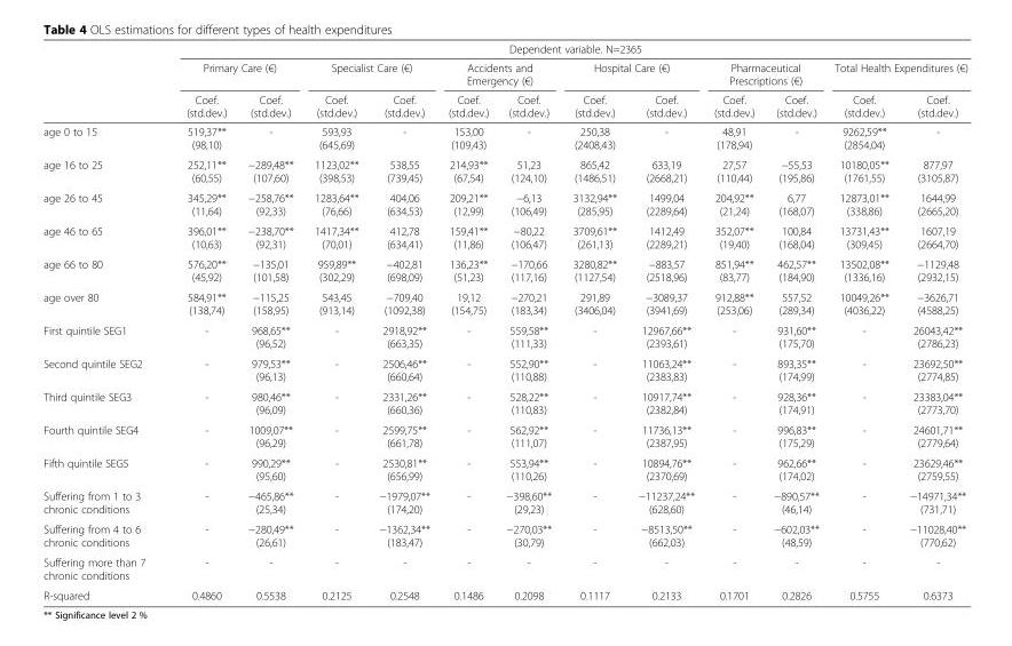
<table><thead><tr><td rowspan="3"></td><td colspan="12">Dependent variable. N=2365</td></tr><tr><td colspan="2">Primary Care (€)</td><td colspan="2">Specialist Care (€)</td><td colspan="2">Accidents and Emergency (€)</td><td colspan="2">Hospital Care (€)</td><td colspan="2">Pharmaceutical Prescriptions (€)</td><td colspan="2">Total Health Expenditures (€)</td></tr><tr><td>Coef. (std.dev.)</td><td>Coef. (std.dev.)</td><td>Coef. (std.dev.)</td><td>Coef. (std.dev.)</td><td>Coef. (std.dev.)</td><td>Coef. (std.dev.)</td><td>Coef. (std.dev.)</td><td>Coef. (std.dev.)</td><td>Coef. (std.dev.)</td><td>Coef. (std.dev.)</td><td>Coef. (std.dev.)</td><td>Coef. (std.dev.)</td></tr></thead><tbody><tr><td>age 0 to 15</td><td>519,37** (98,10)</td><td>-</td><td>593,93 (645,69)</td><td>-</td><td>153,00 (109,43)</td><td>-</td><td>250,38 (2408,43)</td><td>-</td><td>48,91 (178,94)</td><td>-</td><td>9262,59** (2854,04)</td><td>-</td></tr><tr><td>age 16 to 25</td><td>252,11** (60,55)</td><td>−289,48** (107,60)</td><td>1123,02** (398,53)</td><td>538,55 (739,45)</td><td>214,93** (67,54)</td><td>51,23 (124,10)</td><td>865,42 (1486,51)</td><td>633,19 (2668,21)</td><td>27,57 (110,44)</td><td>−55,53 (195,86)</td><td>10180,05** (1761,55)</td><td>877,97 (3105,87)</td></tr><tr><td>age 26 to 45</td><td>345,29** (11,64)</td><td>−258,76** (92,33)</td><td>1283,64** (76,66)</td><td>404,06 (634,53)</td><td>209,21** (12,99)</td><td>−6,13 (106,49)</td><td>3132,94** (285,95)</td><td>1499,04 (2289,64)</td><td>204,92** (21,24)</td><td>6,77 (168,07)</td><td>12873,01** (338,86)</td><td>1644,99 (2665,20)</td></tr><tr><td>age 46 to 65</td><td>396,01** (10,63)</td><td>−238,70** (92,31)</td><td>1417,34** (70,01)</td><td>412,78 (634,41)</td><td>159,41** (11,86)</td><td>−80,22 (106,47)</td><td>3709,61** (261,13)</td><td>1412,49 (2289,21)</td><td>352,07** (19,40)</td><td>100,84 (168,04)</td><td>13731,43** (309,45)</td><td>1607,19 (2664,70)</td></tr><tr><td>age 66 to 80</td><td>576,20** (45,92)</td><td>−135,01 (101,58)</td><td>959,89** (302,29)</td><td>−402,81 (698,09)</td><td>136,23** (51,23)</td><td>−170,66 (117,16)</td><td>3280,82** (1127,54)</td><td>−883,57 (2518,96)</td><td>851,94** (83,77)</td><td>462,57** (184,90)</td><td>13502,08** (1336,16)</td><td>−1129,48 (2932,15)</td></tr><tr><td>age over 80</td><td>584,91** (138,74)</td><td>−115,25 (158,95)</td><td>543,45 (913,14)</td><td>−709,40 (1092,38)</td><td>19,12 (154,75)</td><td>−270,21 (183,34)</td><td>291,89 (3406,04)</td><td>−3089,37 (3941,69)</td><td>912,88** (253,06)</td><td>557,52 (289,34)</td><td>10049,26** (4036,22)</td><td>−3626,71 (4588,25)</td></tr><tr><td>First quintile SEG1</td><td>-</td><td>968,65** (96,52)</td><td>-</td><td>2918,92** (663,35)</td><td>-</td><td>559,58** (111,33)</td><td>-</td><td>12967,66** (2393,61)</td><td>-</td><td>931,60** (175,70)</td><td>-</td><td>26043,42** (2786,23)</td></tr><tr><td>Second quintile SEG2</td><td>-</td><td>979,53** (96,13)</td><td>-</td><td>2506,46** (660,64)</td><td>-</td><td>552,90** (110,88)</td><td>-</td><td>11063,24** (2383,83)</td><td>-</td><td>893,35** (174,99)</td><td>-</td><td>23692,50** (2774,85)</td></tr><tr><td>Third quintile SEG3</td><td>-</td><td>980,46** (96,09)</td><td>-</td><td>2331,26** (660,36)</td><td>-</td><td>528,22** (110,83)</td><td>-</td><td>10917,74** (2382,84)</td><td>-</td><td>928,36** (174,91)</td><td>-</td><td>23383,04** (2773,70)</td></tr><tr><td>Fourth quintile SEG4</td><td>-</td><td>1009,07** (96,29)</td><td>-</td><td>2599,75** (661,78)</td><td>-</td><td>562,92** (111,07)</td><td>-</td><td>11736,13** (2387,95)</td><td>-</td><td>996,83** (175,29)</td><td>-</td><td>24601,71** (2779,64)</td></tr><tr><td>Fifth quintile SEG5</td><td>-</td><td>990,29** (95,60)</td><td>-</td><td>2530,81** (656,99)</td><td>-</td><td>553,94** (110,26)</td><td>-</td><td>10894,76** (2370,69)</td><td>-</td><td>962,66** (174,02)</td><td>-</td><td>23629,46** (2759,55)</td></tr><tr><td>Suffering from 1 to 3 chronic conditions</td><td>-</td><td>−465,86** (25,34)</td><td>-</td><td>−1979,07** (174,20)</td><td>-</td><td>−398,60** (29,23)</td><td>-</td><td>−11237,24** (628,60)</td><td>-</td><td>−890,57** (46,14)</td><td>-</td><td>−14971,34** (731,71)</td></tr><tr><td>Suffering from 4 to 6 chronic conditions</td><td>-</td><td>−280,49** (26,61)</td><td>-</td><td>−1362,34** (183,47)</td><td>-</td><td>−270,03** (30,79)</td><td>-</td><td>−8513,50** (662,03)</td><td>-</td><td>−602,03** (48,59)</td><td>-</td><td>−11028,40** (770,62)</td></tr><tr><td>Suffering more than 7 chronic conditions</td><td>-</td><td>-</td><td>-</td><td>-</td><td>-</td><td>-</td><td>-</td><td>-</td><td>-</td><td>-</td><td>-</td><td>-</td></tr><tr><td>R-squared</td><td>0.4860</td><td>0.5538</td><td>0.2125</td><td>0.2548</td><td>0.1486</td><td>0.2098</td><td>0.1117</td><td>0.2133</td><td>0.1701</td><td>0.2826</td><td>0.5755</td><td>0.6373</td></tr></tbody></table>